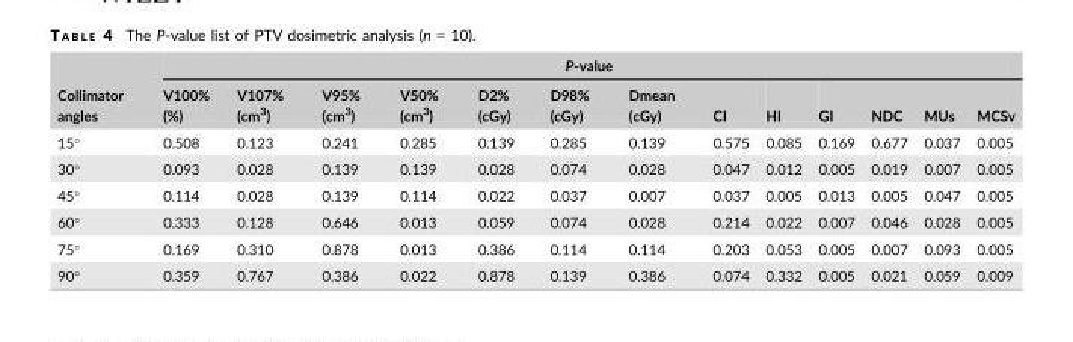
<table><thead><tr><td rowspan="2">Collimator angles</td><td colspan="13">P-value</td></tr><tr><td>V100% (%)</td><td>V107% (cm<sup>3</sup>)</td><td>V95% (cm<sup>3</sup>)</td><td>V50% (cm<sup>3</sup>)</td><td>D2% (cGy)</td><td>D98% (cGy)</td><td>Dmean (cGy)</td><td>CI</td><td>HI</td><td>GI</td><td>NDC</td><td>MUs</td><td>MCSv</td></tr></thead><tbody><tr><td>15°</td><td>0.508</td><td>0.123</td><td>0.241</td><td>0.285</td><td>0.139</td><td>0.285</td><td>0.139</td><td>0.575</td><td>0.085</td><td>0.169</td><td>0.677</td><td>0.037</td><td>0.005</td></tr><tr><td>30°</td><td>0.093</td><td>0.028</td><td>0.139</td><td>0.139</td><td>0.028</td><td>0.074</td><td>0.028</td><td>0.047</td><td>0.012</td><td>0.005</td><td>0.019</td><td>0.007</td><td>0.005</td></tr><tr><td>45°</td><td>0.114</td><td>0.028</td><td>0.139</td><td>0.114</td><td>0.022</td><td>0.037</td><td>0.007</td><td>0.037</td><td>0.005</td><td>0.013</td><td>0.005</td><td>0.047</td><td>0.005</td></tr><tr><td>60°</td><td>0.333</td><td>0.128</td><td>0.646</td><td>0.013</td><td>0.059</td><td>0.074</td><td>0.028</td><td>0.214</td><td>0.022</td><td>0.007</td><td>0.046</td><td>0.028</td><td>0.005</td></tr><tr><td>75°</td><td>0.169</td><td>0.310</td><td>0.878</td><td>0.013</td><td>0.386</td><td>0.114</td><td>0.114</td><td>0.203</td><td>0.053</td><td>0.005</td><td>0.007</td><td>0.093</td><td>0.005</td></tr><tr><td>90°</td><td>0.359</td><td>0.767</td><td>0.386</td><td>0.022</td><td>0.878</td><td>0.139</td><td>0.386</td><td>0.074</td><td>0.332</td><td>0.005</td><td>0.021</td><td>0.059</td><td>0.009</td></tr></tbody></table>